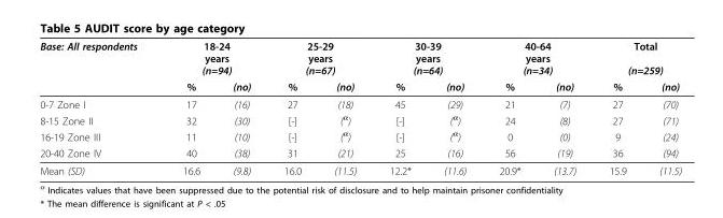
<table><thead><tr><td rowspan="2">Base: All respondents</td><td colspan="2">18-24 years (n=94)</td><td colspan="2">25-29 years (n=67)</td><td colspan="2">30-39 years (n=64)</td><td colspan="2">40-64 years (n=34)</td><td colspan="2">Total (n=259)</td></tr><tr><td>%</td><td>(no)</td><td>%</td><td>(no)</td><td>%</td><td>(no)</td><td>%</td><td>(no)</td><td>%</td><td>(no)</td></tr></thead><tbody><tr><td>0-7 Zone I</td><td>17</td><td>(16)</td><td>27</td><td>(18)</td><td>45</td><td>(29)</td><td>21</td><td>(7)</td><td>27</td><td>(70)</td></tr><tr><td>8-15 Zone II</td><td>32</td><td>(30)</td><td>[-]</td><td>(<sup>α</sup>)</td><td>[-]</td><td>(<sup>α</sup>)</td><td>24</td><td>(8)</td><td>27</td><td>(71)</td></tr><tr><td>16-19 Zone III</td><td>11</td><td>(10)</td><td>[-]</td><td>(<sup>α</sup>)</td><td>[-]</td><td>(<sup>α</sup>)</td><td>0</td><td>(0)</td><td>9</td><td>(24)</td></tr><tr><td>20-40 Zone IV</td><td>40</td><td>(38)</td><td>31</td><td>(21)</td><td>25</td><td>(16)</td><td>56</td><td>(19)</td><td>36</td><td>(94)</td></tr><tr><td>Mean (SD)</td><td>16.6</td><td>(9.8)</td><td>16.0</td><td>(11.5)</td><td>12.2*</td><td>(11.6)</td><td>20.9*</td><td>(13.7)</td><td>15.9</td><td>(11.5)</td></tr></tbody></table>